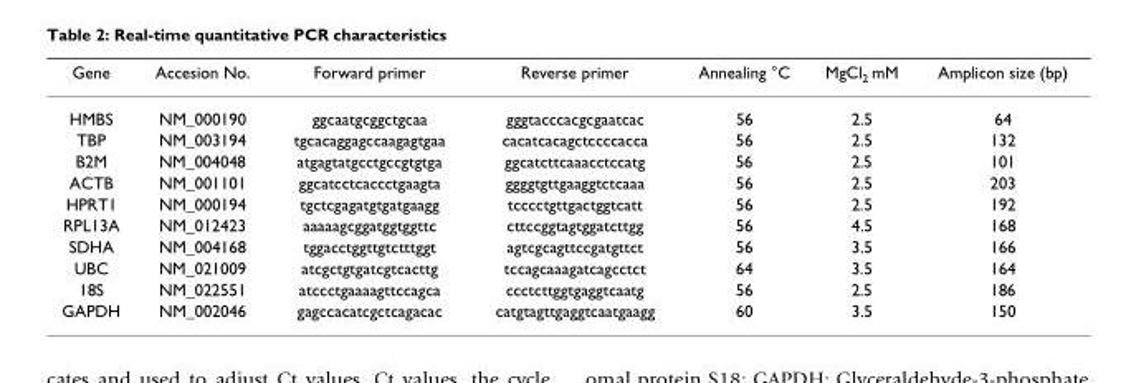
<table><thead><tr><td>Gene</td><td>Accesion No.</td><td>Forward primer</td><td>Reverse primer</td><td>Annealing °C</td><td>MgCl<sub>2</sub> mM</td><td>Amplicon size (bp)</td></tr></thead><tbody><tr><td>HMBS</td><td>NM_000190</td><td>ggcaatgcggctgcaa</td><td>gggtacccacgcgaatcac</td><td>56</td><td>2.5</td><td>64</td></tr><tr><td>TBP</td><td>NM_003194</td><td>tgcacaggagccaagagtgaa</td><td>cacatcacagctccccacca</td><td>56</td><td>2.5</td><td>132</td></tr><tr><td>B2M</td><td>NM_004048</td><td>atgagtatgcctgccgtgtga</td><td>ggcatcttcaaacctccatg</td><td>56</td><td>2.5</td><td>101</td></tr><tr><td>ACTB</td><td>NM_001101</td><td>ggcatcctcaccctgaagta</td><td>ggggtgttgaaggtctcaaa</td><td>56</td><td>2.5</td><td>203</td></tr><tr><td>HPRT1</td><td>NM_000194</td><td>tgctcgagatgtgatgaagg</td><td>tcccctgttgactggtcatt</td><td>56</td><td>2.5</td><td>192</td></tr><tr><td>RPL13A</td><td>NM_012423</td><td>aaaaagcggatggtggttc</td><td>cttccggtagtggatcttgg</td><td>56</td><td>4.5</td><td>168</td></tr><tr><td>SDHA</td><td>NM_004168</td><td>tggacctggttgtctttggt</td><td>agtcgcagttccgatgttct</td><td>56</td><td>3.5</td><td>166</td></tr><tr><td>UBC</td><td>NM_021009</td><td>atcgctgtgatcgtcacttg</td><td>tccagcaaagatcagcctct</td><td>64</td><td>3.5</td><td>164</td></tr><tr><td>18S</td><td>NM_022551</td><td>atccctgaaaagttccagca</td><td>ccctcttggtgaggtcaatg</td><td>56</td><td>2.5</td><td>186</td></tr><tr><td>GAPDH</td><td>NM_002046</td><td>gagccacatcgctcagacac</td><td>catgtagttgaggtcaatgaagg</td><td>60</td><td>3.5</td><td>150</td></tr></tbody></table>